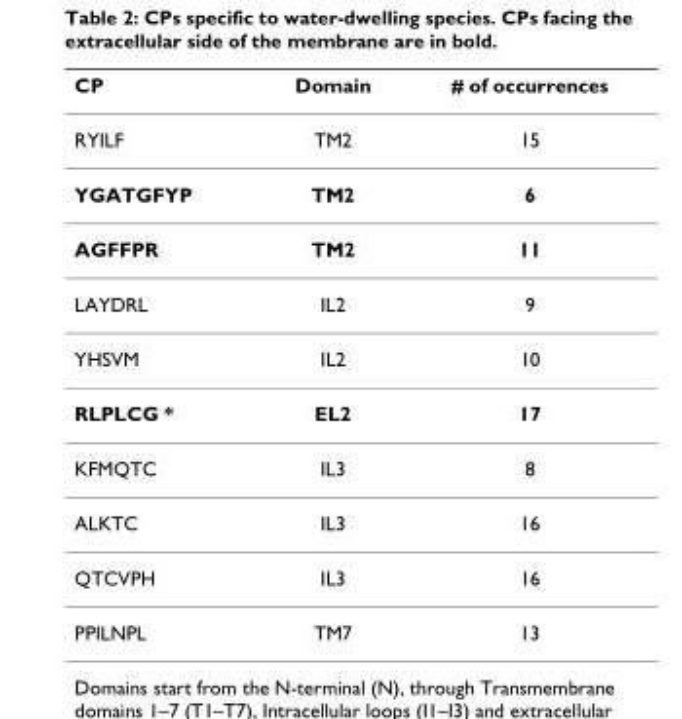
<table><thead><tr><td>CP</td><td>Domain</td><td># of occurrences</td></tr></thead><tbody><tr><td>RYILF</td><td>TM2</td><td>15</td></tr><tr><td>YGATGFYP</td><td>TM2</td><td>6</td></tr><tr><td>AGFFPR</td><td>TM2</td><td>11</td></tr><tr><td>LAYDRL</td><td>IL2</td><td>9</td></tr><tr><td>YHSVM</td><td>IL2</td><td>10</td></tr><tr><td>RLPLCG *</td><td>EL2</td><td>17</td></tr><tr><td>KFMQTC</td><td>IL3</td><td>8</td></tr><tr><td>ALKTC</td><td>IL3</td><td>16</td></tr><tr><td>QTCVPH</td><td>IL3</td><td>16</td></tr><tr><td>PPILNPL</td><td>TM7</td><td>13</td></tr></tbody></table>